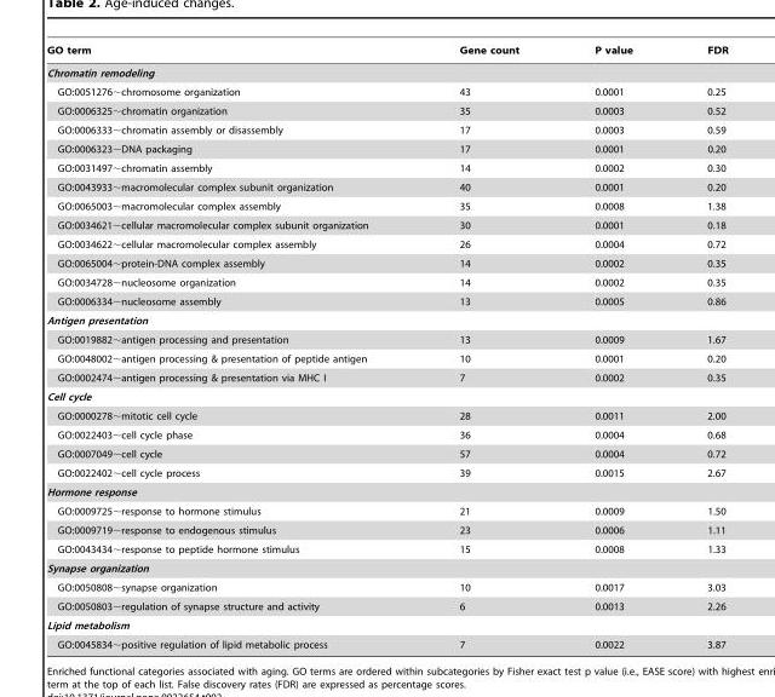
<table><thead><tr><td>GO term</td><td>Gene count</td><td>P value</td><td>FDR</td></tr></thead><tbody><tr><td colspan="4">Chromatin remodeling</td></tr><tr><td>GO:0051276∼chromosome organization</td><td>43</td><td>0.0001</td><td>0.25</td></tr><tr><td>GO:0006325∼chromatin organization</td><td>35</td><td>0.0003</td><td>0.52</td></tr><tr><td>GO:0006333∼chromatin assembly or disassembly</td><td>17</td><td>0.0003</td><td>0.59</td></tr><tr><td>GO:0006323∼DNA packaging</td><td>17</td><td>0.0001</td><td>0.20</td></tr><tr><td>GO:0031497∼chromatin assembly</td><td>14</td><td>0.0002</td><td>0.30</td></tr><tr><td>GO:0043933∼macromolecular complex subunit organization</td><td>40</td><td>0.0001</td><td>0.20</td></tr><tr><td>GO:0065003∼macromolecular complex assembly</td><td>35</td><td>0.0008</td><td>1.38</td></tr><tr><td>GO:0034621∼cellular macromolecular complex subunit organization</td><td>30</td><td>0.0001</td><td>0.18</td></tr><tr><td>GO:0034622∼cellular macromolecular complex assembly</td><td>26</td><td>0.0004</td><td>0.72</td></tr><tr><td>GO:0065004∼protein-DNA complex assembly</td><td>14</td><td>0.0002</td><td>0.35</td></tr><tr><td>GO:0034728∼nucleosome organization</td><td>14</td><td>0.0002</td><td>0.35</td></tr><tr><td>GO:0006334∼nucleosome assembly</td><td>13</td><td>0.0005</td><td>0.86</td></tr><tr><td colspan="4">Antigen presentation</td></tr><tr><td>GO:0019882∼antigen processing and presentation</td><td>13</td><td>0.0009</td><td>1.67</td></tr><tr><td>GO:0048002∼antigen processing &amp; presentation of peptide antigen</td><td>10</td><td>0.0001</td><td>0.20</td></tr><tr><td>GO:0002474∼antigen processing &amp; presentation via MHC I</td><td>7</td><td>0.0002</td><td>0.35</td></tr><tr><td colspan="4">Cell cycle</td></tr><tr><td>GO:0000278∼mitotic cell cycle</td><td>28</td><td>0.0011</td><td>2.00</td></tr><tr><td>GO:0022403∼cell cycle phase</td><td>36</td><td>0.0004</td><td>0.68</td></tr><tr><td>GO:0007049∼cell cycle</td><td>57</td><td>0.0004</td><td>0.72</td></tr><tr><td>GO:0022402∼cell cycle process</td><td>39</td><td>0.0015</td><td>2.67</td></tr><tr><td colspan="4">Hormone response</td></tr><tr><td>GO:0009725∼response to hormone stimulus</td><td>21</td><td>0.0009</td><td>1.50</td></tr><tr><td>GO:0009719∼response to endogenous stimulus</td><td>23</td><td>0.0006</td><td>1.11</td></tr><tr><td>GO:0043434∼response to peptide hormone stimulus</td><td>15</td><td>0.0008</td><td>1.33</td></tr><tr><td colspan="4">Synapse organization</td></tr><tr><td>GO:0050808∼synapse organization</td><td>10</td><td>0.0017</td><td>3.03</td></tr><tr><td>GO:0050803∼regulation of synapse structure and activity</td><td>6</td><td>0.0013</td><td>2.26</td></tr><tr><td colspan="4">Lipid metabolism</td></tr><tr><td>GO:0045834∼positive regulation of lipid metabolic process</td><td>7</td><td>0.0022</td><td>3.87</td></tr></tbody></table>